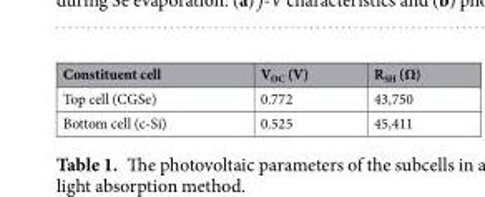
<table><thead><tr><td>Constituent cell</td><td>V<sub>OC</sub> (V)</td><td>R<sub>SH</sub> (Ω)</td></tr></thead><tbody><tr><td>Top cell (CGSe)</td><td>0.772</td><td>43,750</td></tr><tr><td>Bottom cell (c-Si)</td><td>0.525</td><td>45,411</td></tr></tbody></table>